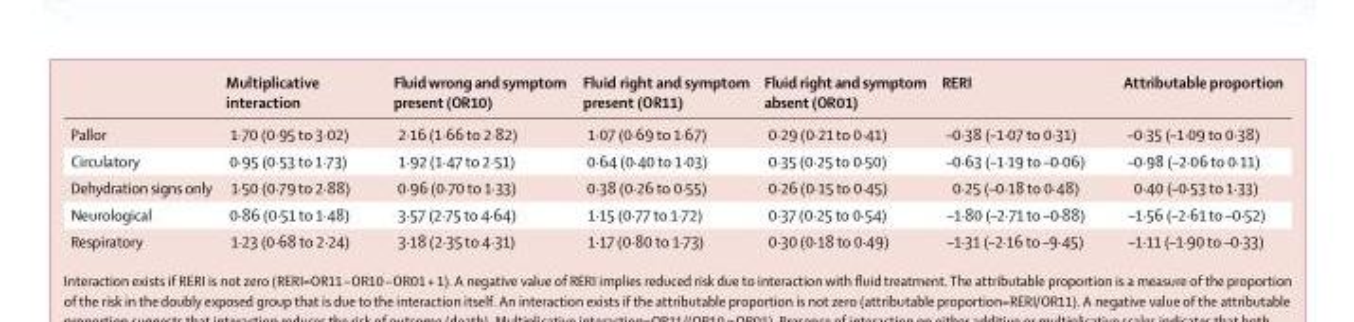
<table><thead><tr><td></td><td>Multiplicative interaction</td><td>Fluid wrong and symptom present (OR10)</td><td>Fluid right and symptom present (OR11)</td><td>Fluid right and symptom absent (OR01)</td><td>RERI</td><td>Attributable proportion</td></tr></thead><tbody><tr><td>Pallor</td><td>1·70 (0·95 to 3·02)</td><td>2·16 (1·66 to 2·82)</td><td>1·07 (0·69 to 1·67)</td><td>0·29 (0·21 to 0·41)</td><td>–0·38 (–1·07 to 0·31)</td><td>–0·35 (–1·09 to 0·38)</td></tr><tr><td>Circulatory</td><td>0·95 (0·53 to 1·73)</td><td>1·92 (1·47 to 2·51)</td><td>0·64 (0·40 to 1·03)</td><td>0·35 (0·25 to 0·50)</td><td>–0·63 (–1·19 to –0·06)</td><td>–0·98 (–2·06 to 0·11)</td></tr><tr><td>Dehydration signs only</td><td>1·50 (0·79 to 2·88)</td><td>0·96 (0·70 to 1·33)</td><td>0·38 (0·26 to 0·55)</td><td>0·26 (0·15 to 0·45)</td><td>0·25 (–0·18 to 0·48)</td><td>0·40 (–0·53 to 1·33)</td></tr><tr><td>Neurological</td><td>0·86 (0·51 to 1·48)</td><td>3·57 (2·75 to 4·64)</td><td>1·15 (0·77 to 1·72)</td><td>0·37 (0·25 to 0·54)</td><td>–1·80 (–2·71 to –0·88)</td><td>–1·56 (–2·61 to –0·52)</td></tr><tr><td>Respiratory</td><td>1·23 (0·68 to 2·24)</td><td>3·18 (2·35 to 4·31)</td><td>1·17 (0·80 to 1·73)</td><td>0·30 (0·18 to 0·49)</td><td>–1·31 (–2·16 to –9·45)</td><td>–1·11 (–1·90 to –0·33)</td></tr></tbody></table>